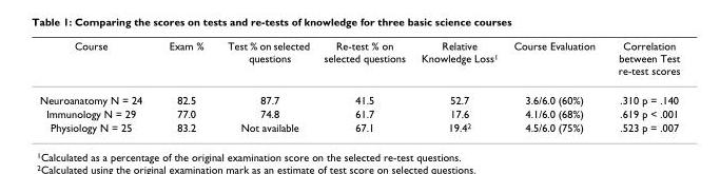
<table><thead><tr><td>Course</td><td>Exam %</td><td>Test % on selected questions</td><td>Re-test % on selected questions</td><td>Relative Knowledge Loss1</td><td>Course Evaluation</td><td>Correlation between Test re-test scores</td></tr></thead><tbody><tr><td>Neuroanatomy N = 24</td><td>82.5</td><td>87.7</td><td>41.5</td><td>52.7</td><td>3.6/6.0 (60%)</td><td>.310 p = .140</td></tr><tr><td>Immunology N = 29</td><td>77.0</td><td>74.8</td><td>61.7</td><td>17.6</td><td>4.1/6.0 (68%)</td><td>.619 p &lt; .001</td></tr><tr><td>Physiology N = 25</td><td>83.2</td><td>Not available</td><td>67.1</td><td>19.42</td><td>4.5/6.0 (75%)</td><td>.523 p = .007</td></tr></tbody></table>